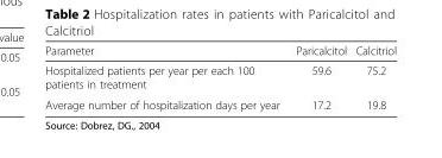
<table><thead><tr><td>Parameter</td><td>Paricalcitol</td><td>Calcitriol</td></tr></thead><tbody><tr><td>Hospitalized patients per year per each 100 patients in treatment</td><td>59.6</td><td>75.2</td></tr><tr><td>Average number of hospitalization days per year</td><td>17.2</td><td>19.8</td></tr></tbody></table>